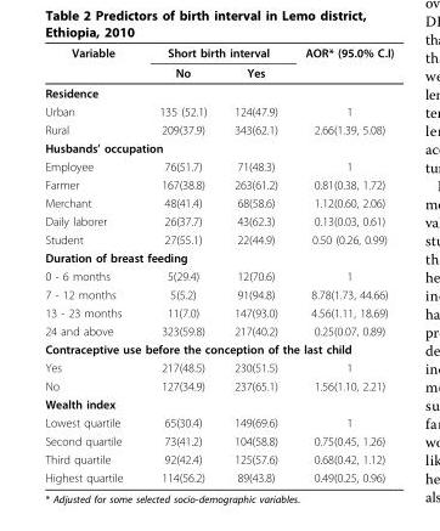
<table><thead><tr><td rowspan="2">Variable</td><td colspan="2">Short birth interval</td><td rowspan="2">AOR* (95.0% C.I)</td></tr><tr><td>No</td><td>Yes</td></tr></thead><tbody><tr><td colspan="4">Residence</td></tr><tr><td>Urban</td><td>135 (52.1)</td><td>124(47.9)</td><td>1</td></tr><tr><td>Rural</td><td>209(37.9)</td><td>343(62.1)</td><td>2.66(1.39, 5.08)</td></tr><tr><td colspan="4">Husbands’ occupation</td></tr><tr><td>Employee</td><td>76(51.7)</td><td>71(48.3)</td><td>1</td></tr><tr><td>Farmer</td><td>167(38.8)</td><td>263(61.2)</td><td>0.81(0.38, 1.72)</td></tr><tr><td>Merchant</td><td>48(41.4)</td><td>68(58.6)</td><td>1.12(0.60, 2.06)</td></tr><tr><td>Daily laborer</td><td>26(37.7)</td><td>43(62.3)</td><td>0.13(0.03, 0.61)</td></tr><tr><td>Student</td><td>27(55.1)</td><td>22(44.9)</td><td>0.50 (0.26, 0.99)</td></tr><tr><td colspan="4">Duration of breast feeding</td></tr><tr><td>0 - 6 months</td><td>5(29.4)</td><td>12(70.6)</td><td>1</td></tr><tr><td>7 - 12 months</td><td>5(5.2)</td><td>91(94.8)</td><td>8.78(1.73, 44.66)</td></tr><tr><td>13 - 23 months</td><td>11(7.0)</td><td>147(93.0)</td><td>4.56(1.11, 18.69)</td></tr><tr><td>24 and above</td><td>323(59.8)</td><td>217(40.2)</td><td>0.25(0.07, 0.89)</td></tr><tr><td colspan="4">Contraceptive use before the conception of the last child</td></tr><tr><td>Yes</td><td>217(48.5)</td><td>230(51.5)</td><td>1</td></tr><tr><td>No</td><td>127(34.9)</td><td>237(65.1)</td><td>1.56(1.10, 2.21)</td></tr><tr><td colspan="4">Wealth index</td></tr><tr><td>Lowest quartile</td><td>65(30.4)</td><td>149(69.6)</td><td>1</td></tr><tr><td>Second quartile</td><td>73(41.2)</td><td>104(58.8)</td><td>0.75(0.45, 1.26)</td></tr><tr><td>Third quartile</td><td>92(42.4)</td><td>125(57.6)</td><td>0.68(0.42, 1.12)</td></tr><tr><td>Highest quartile</td><td>114(56.2)</td><td>89(43.8)</td><td>0.49(0.25, 0.96)</td></tr></tbody></table>